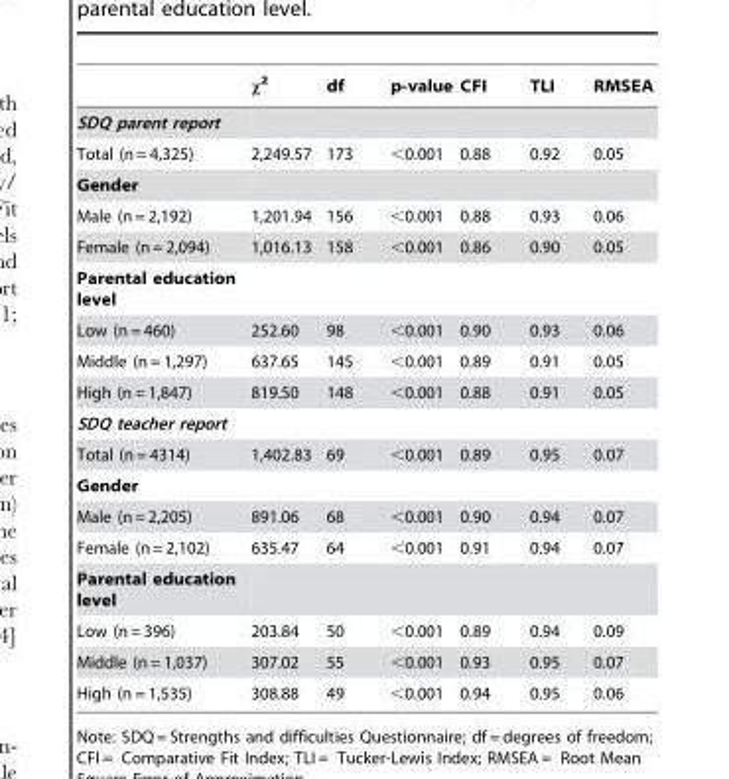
<table><thead><tr><td></td><td>χ<sup>2</sup></td><td>df</td><td>p-value</td><td>CFI</td><td>TLI</td><td>RMSEA</td></tr></thead><tbody><tr><td colspan="7">SDQ parent report</td></tr><tr><td>Total (n = 4,325)</td><td>2,249.57</td><td>173</td><td>&lt;0.001</td><td>0.88</td><td>0.92</td><td>0.05</td></tr><tr><td colspan="7">Gender</td></tr><tr><td>Male (n = 2,192)</td><td>1,201.94</td><td>156</td><td>&lt;0.001</td><td>0.88</td><td>0.93</td><td>0.06</td></tr><tr><td>Female (n = 2,094)</td><td>1,016.13</td><td>158</td><td>&lt;0.001</td><td>0.86</td><td>0.90</td><td>0.05</td></tr><tr><td colspan="7">Parental education level</td></tr><tr><td>Low (n = 460)</td><td>252.60</td><td>98</td><td>&lt;0.001</td><td>0.90</td><td>0.93</td><td>0.06</td></tr><tr><td>Middle (n = 1,297)</td><td>637.65</td><td>145</td><td>&lt;0.001</td><td>0.89</td><td>0.91</td><td>0.05</td></tr><tr><td>High (n = 1,847)</td><td>819.50</td><td>148</td><td>&lt;0.001</td><td>0.88</td><td>0.91</td><td>0.05</td></tr><tr><td colspan="7">SDQ teacher report</td></tr><tr><td>Total (n = 4314)</td><td>1,402.83</td><td>69</td><td>&lt;0.001</td><td>0.89</td><td>0.95</td><td>0.07</td></tr><tr><td colspan="7">Gender</td></tr><tr><td>Male (n = 2,205)</td><td>891.06</td><td>68</td><td>&lt;0.001</td><td>0.90</td><td>0.94</td><td>0.07</td></tr><tr><td>Female (n = 2,102)</td><td>635.47</td><td>64</td><td>&lt;0.001</td><td>0.91</td><td>0.94</td><td>0.07</td></tr><tr><td colspan="7">Parental education level</td></tr><tr><td>Low (n = 396)</td><td>203.84</td><td>50</td><td>&lt;0.001</td><td>0.89</td><td>0.94</td><td>0.09</td></tr><tr><td>Middle (n = 1,037)</td><td>307.02</td><td>55</td><td>&lt;0.001</td><td>0.93</td><td>0.95</td><td>0.07</td></tr><tr><td>High (n = 1,535)</td><td>308.88</td><td>49</td><td>&lt;0.001</td><td>0.94</td><td>0.95</td><td>0.06</td></tr></tbody></table>